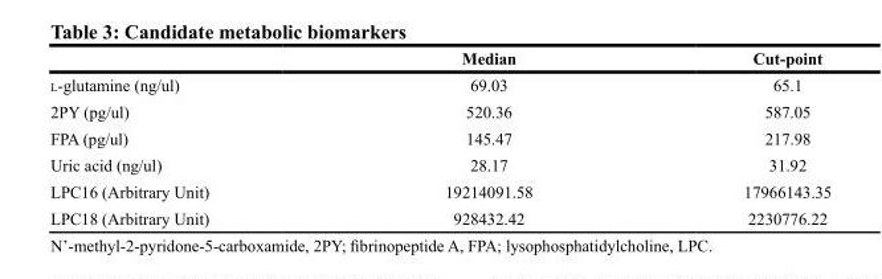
<table><thead><tr><td></td><td>Median</td><td>Cut-point</td></tr></thead><tbody><tr><td>l-glutamine (ng/ul)</td><td>69.03</td><td>65.1</td></tr><tr><td>2PY (pg/ul)</td><td>520.36</td><td>587.05</td></tr><tr><td>FPA (pg/ul)</td><td>145.47</td><td>217.98</td></tr><tr><td>Uric acid (ng/ul)</td><td>28.17</td><td>31.92</td></tr><tr><td>LPC16 (Arbitrary Unit)</td><td>19214091.58</td><td>17966143.35</td></tr><tr><td>LPC18 (Arbitrary Unit)</td><td>928432.42</td><td>2230776.22</td></tr></tbody></table>